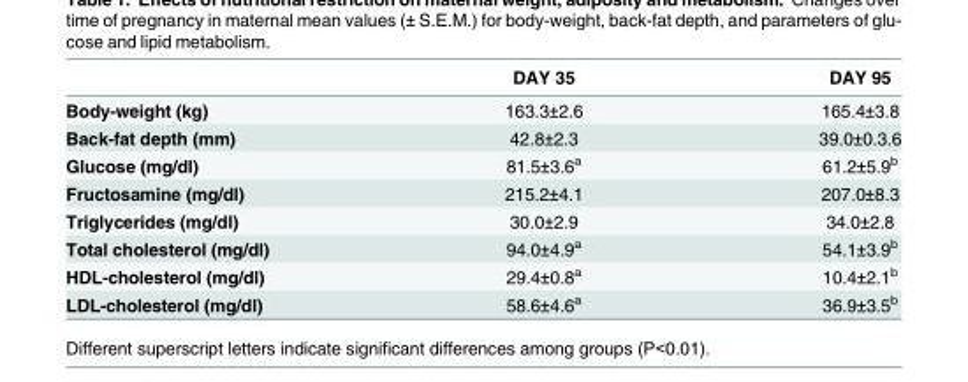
<table><thead><tr><td></td><td>DAY 35</td><td>DAY 95</td></tr></thead><tbody><tr><td>Body-weight (kg)</td><td>163.3±2.6</td><td>165.4±3.8</td></tr><tr><td>Back-fat depth (mm)</td><td>42.8±2.3</td><td>39.0±0.3.6</td></tr><tr><td>Glucose (mg/dl)</td><td>81.5±3.6<sup>a</sup></td><td>61.2±5.9<sup>b</sup></td></tr><tr><td>Fructosamine (mg/dl)</td><td>215.2±4.1</td><td>207.0±8.3</td></tr><tr><td>Triglycerides (mg/dl)</td><td>30.0±2.9</td><td>34.0±2.8</td></tr><tr><td>Total cholesterol (mg/dl)</td><td>94.0±4.9<sup>a</sup></td><td>54.1±3.9<sup>b</sup></td></tr><tr><td>HDL-cholesterol (mg/dl)</td><td>29.4±0.8<sup>a</sup></td><td>10.4±2.1<sup>b</sup></td></tr><tr><td>LDL-cholesterol (mg/dl)</td><td>58.6±4.6<sup>a</sup></td><td>36.9±3.5<sup>b</sup></td></tr></tbody></table>